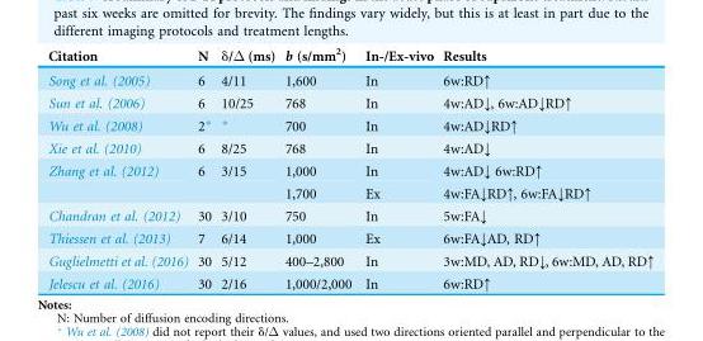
<table><thead><tr><td>Citation</td><td>N</td><td>δ/Δ (ms)</td><td>b (s/mm<sup>2</sup>)</td><td>In-/Ex-vivo</td><td>Results</td></tr></thead><tbody><tr><td>Song et al. (2005)</td><td>6</td><td>4/11</td><td>1,600</td><td>In</td><td>6w:RD↑</td></tr><tr><td>Sun et al. (2006)</td><td>6</td><td>10/25</td><td>768</td><td>In</td><td>4w:AD↓, 6w:AD↓RD↑</td></tr><tr><td>Wu et al. (2008)</td><td>2*</td><td>*</td><td>700</td><td>In</td><td>4w:AD↓RD↑</td></tr><tr><td>Xie et al. (2010)</td><td>6</td><td>8/25</td><td>768</td><td>In</td><td>4w:AD↓</td></tr><tr><td rowspan="2">Zhang et al. (2012)</td><td>6</td><td>3/15</td><td>1,000</td><td>In</td><td>4w:AD↓ 6w:RD↑</td></tr><tr><td></td><td></td><td>1,700</td><td>Ex</td><td>4w:FA↓RD↑, 6w:FA↓RD↑</td></tr><tr><td>Chandran et al. (2012)</td><td>30</td><td>3/10</td><td>750</td><td>In</td><td>5w:FA↓</td></tr><tr><td>Thiessen et al. (2013)</td><td>7</td><td>6/14</td><td>1,000</td><td>Ex</td><td>6w:FA↓AD, RD↑</td></tr><tr><td>Guglielmetti et al. (2016)</td><td>30</td><td>5/12</td><td>400–2,800</td><td>In</td><td>3w:MD, AD, RD↓, 6w:MD, AD, RD↑</td></tr><tr><td>Jelescu et al. (2016)</td><td>30</td><td>2/16</td><td>1,000/2,000</td><td>In</td><td>6w:RD↑</td></tr></tbody></table>